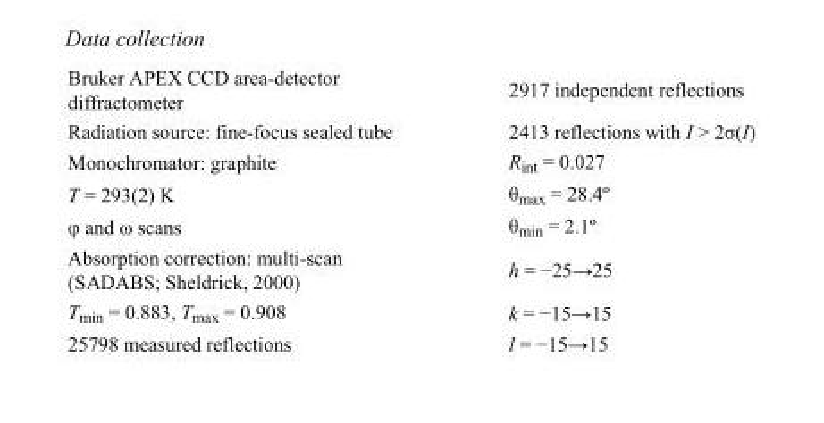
<table><tbody><tr><td>Bruker APEX CCD area-detector diffractometer</td><td>2917 independent reflections</td></tr><tr><td>Radiation source: fine-focus sealed tube</td><td>2413 reflections with I &gt; 2σ(I)</td></tr><tr><td>Monochromator: graphite</td><td>R<sub>int</sub> = 0.027</td></tr><tr><td>T = 293(2) K</td><td>θ<sub>max</sub> = 28.4º</td></tr><tr><td>φ and ω scans</td><td>θ<sub>min</sub> = 2.1º</td></tr><tr><td>Absorption correction: multi-scan (SADABS; Sheldrick, 2000)</td><td>h = −25→25</td></tr><tr><td>T<sub>min</sub> = 0.883, T<sub>max</sub> = 0.908</td><td>k = −15→15</td></tr><tr><td>25798 measured reflections</td><td>l = −15→15</td></tr></tbody></table>